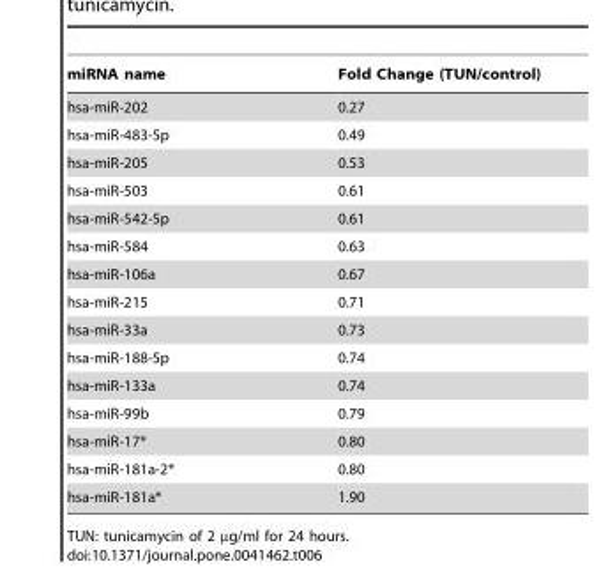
<table><thead><tr><td>miRNA name</td><td>Fold Change (TUN/control)</td></tr></thead><tbody><tr><td>hsa-miR-202</td><td>0.27</td></tr><tr><td>hsa-miR-483-5p</td><td>0.49</td></tr><tr><td>hsa-miR-205</td><td>0.53</td></tr><tr><td>hsa-miR-503</td><td>0.61</td></tr><tr><td>hsa-miR-542-5p</td><td>0.61</td></tr><tr><td>hsa-miR-584</td><td>0.63</td></tr><tr><td>hsa-miR-106a</td><td>0.67</td></tr><tr><td>hsa-miR-215</td><td>0.71</td></tr><tr><td>hsa-miR-33a</td><td>0.73</td></tr><tr><td>hsa-miR-188-5p</td><td>0.74</td></tr><tr><td>hsa-miR-133a</td><td>0.74</td></tr><tr><td>hsa-miR-99b</td><td>0.79</td></tr><tr><td>hsa-miR-17*</td><td>0.80</td></tr><tr><td>hsa-miR-181a-2*</td><td>0.80</td></tr><tr><td>hsa-miR-181a*</td><td>1.90</td></tr></tbody></table>